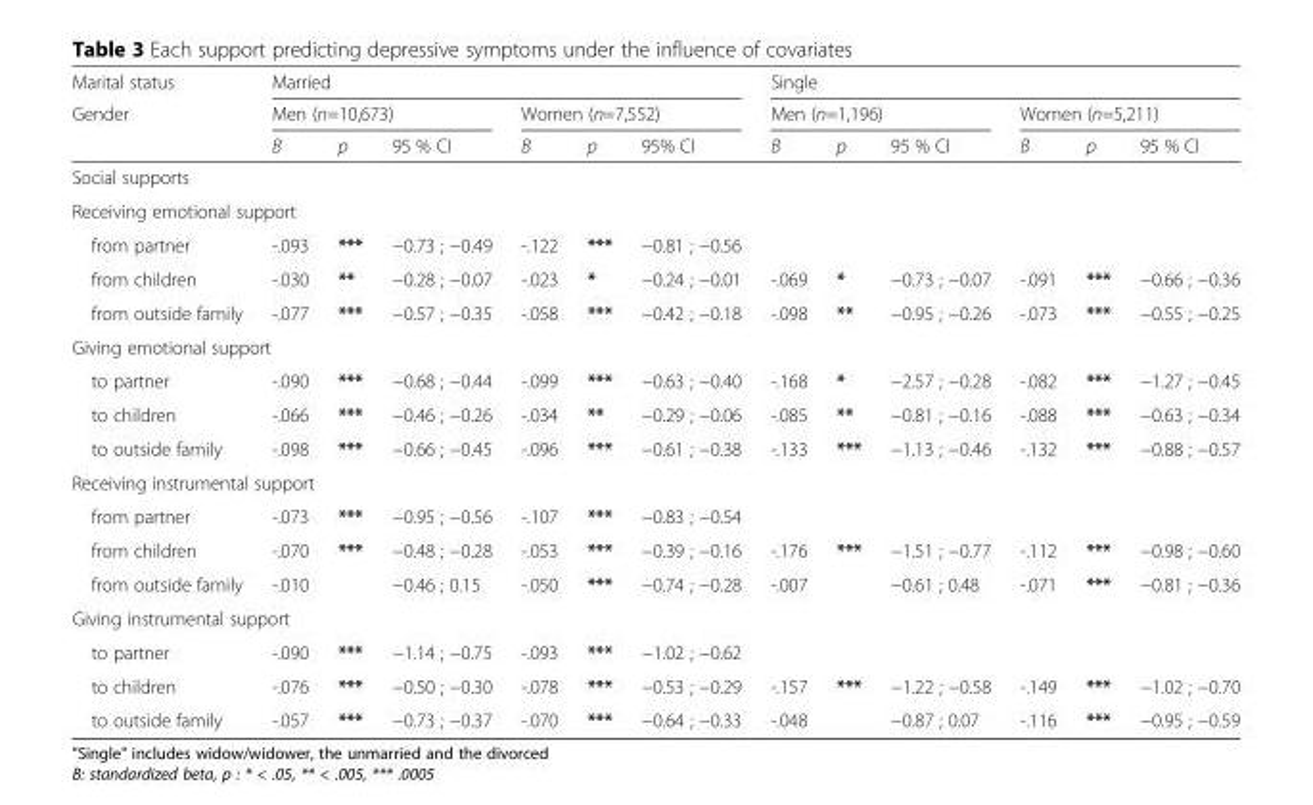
<table><thead><tr><td rowspan="3">Marital status Gender</td><td colspan="6">Married</td><td colspan="6">Single</td></tr><tr><td colspan="3">Men (n=10,673)</td><td colspan="3">Women (n=7,552)</td><td colspan="3">Men (n=1,196)</td><td colspan="3">Women (n=5,211)</td></tr><tr><td>B</td><td>p</td><td>95 % CI</td><td>B</td><td>p</td><td>95% CI</td><td>B</td><td>p</td><td>95 % CI</td><td>B</td><td>p</td><td>95 % CI</td></tr></thead><tbody><tr><td colspan="13">Social supports</td></tr><tr><td colspan="13">Receiving emotional support</td></tr><tr><td>from partner</td><td>-.093</td><td>***</td><td>−0.73 ; −0.49</td><td>-.122</td><td>***</td><td>−0.81 ; −0.56</td><td></td><td></td><td></td><td></td><td></td><td></td></tr><tr><td>from children</td><td>-.030</td><td>**</td><td>−0.28 ; −0.07</td><td>-.023</td><td>*</td><td>−0.24 ; −0.01</td><td>-.069</td><td>*</td><td>−0.73 ; −0.07</td><td>-.091</td><td>***</td><td>−0.66 ; −0.36</td></tr><tr><td>from outside family</td><td>-.077</td><td>***</td><td>−0.57 ; −0.35</td><td>-.058</td><td>***</td><td>−0.42 ; −0.18</td><td>-.098</td><td>**</td><td>−0.95 ; −0.26</td><td>-.073</td><td>***</td><td>−0.55 ; −0.25</td></tr><tr><td colspan="13">Giving emotional support</td></tr><tr><td>to partner</td><td>-.090</td><td>***</td><td>−0.68 ; −0.44</td><td>-.099</td><td>***</td><td>−0.63 ; −0.40</td><td>-.168</td><td>*</td><td>−2.57 ; −0.28</td><td>-.082</td><td>***</td><td>−1.27 ; −0.45</td></tr><tr><td>to children</td><td>-.066</td><td>***</td><td>−0.46 ; −0.26</td><td>-.034</td><td>**</td><td>−0.29 ; −0.06</td><td>-.085</td><td>**</td><td>−0.81 ; −0.16</td><td>-.088</td><td>***</td><td>−0.63 ; −0.34</td></tr><tr><td>to outside family</td><td>-.098</td><td>***</td><td>−0.66 ; −0.45</td><td>-.096</td><td>***</td><td>−0.61 ; −0.38</td><td>-.133</td><td>***</td><td>−1.13 ; −0.46</td><td>-.132</td><td>***</td><td>−0.88 ; −0.57</td></tr><tr><td colspan="13">Receiving instrumental support</td></tr><tr><td>from partner</td><td>-.073</td><td>***</td><td>−0.95 ; −0.56</td><td>-.107</td><td>***</td><td>−0.83 ; −0.54</td><td></td><td></td><td></td><td></td><td></td><td></td></tr><tr><td>from children</td><td>-.070</td><td>***</td><td>−0.48 ; −0.28</td><td>-.053</td><td>***</td><td>−0.39 ; −0.16</td><td>-.176</td><td>***</td><td>−1.51 ; −0.77</td><td>-.112</td><td>***</td><td>−0.98 ; −0.60</td></tr><tr><td>from outside family</td><td>-.010</td><td></td><td>−0.46 ; 0.15</td><td>-.050</td><td>***</td><td>−0.74 ; −0.28</td><td>-.007</td><td></td><td>−0.61 ; 0.48</td><td>-.071</td><td>***</td><td>−0.81 ; −0.36</td></tr><tr><td colspan="13">Giving instrumental support</td></tr><tr><td>to partner</td><td>-.090</td><td>***</td><td>−1.14 ; −0.75</td><td>-.093</td><td>***</td><td>−1.02 ; −0.62</td><td></td><td></td><td></td><td></td><td></td><td></td></tr><tr><td>to children</td><td>-.076</td><td>***</td><td>−0.50 ; −0.30</td><td>-.078</td><td>***</td><td>−0.53 ; −0.29</td><td>-.157</td><td>***</td><td>−1.22 ; −0.58</td><td>-.149</td><td>***</td><td>−1.02 ; −0.70</td></tr><tr><td>to outside family</td><td>-.057</td><td>***</td><td>−0.73 ; −0.37</td><td>-.070</td><td>***</td><td>−0.64 ; −0.33</td><td>-.048</td><td></td><td>−0.87 ; 0.07</td><td>-.116</td><td>***</td><td>−0.95 ; −0.59</td></tr></tbody></table>